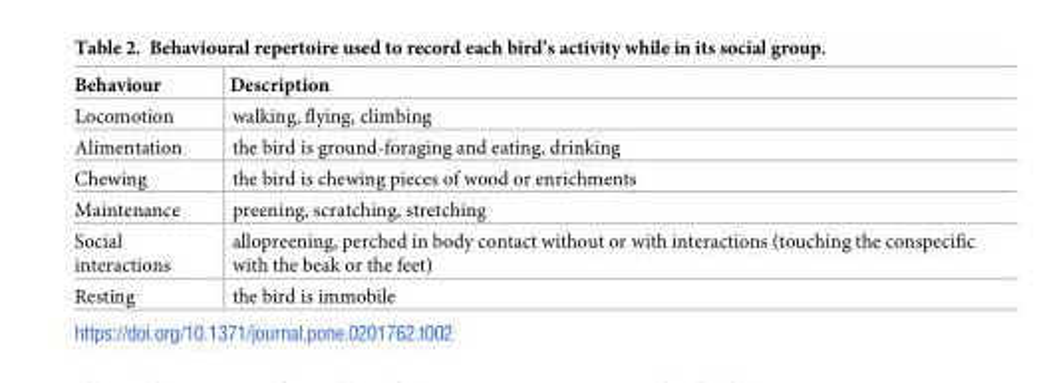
<table><thead><tr><td>Behaviour</td><td>Description</td></tr></thead><tbody><tr><td>Locomotion</td><td>walking, flying, climbing</td></tr><tr><td>Alimentation</td><td>the bird is ground-foraging and eating, drinking</td></tr><tr><td>Chewing</td><td>the bird is chewing pieces of wood or enrichments</td></tr><tr><td>Maintenance</td><td>preening, scratching, stretching</td></tr><tr><td>Social interactions</td><td>allopreening, perched in body contact without or with interactions (touching the conspecific with the beak or the feet)</td></tr><tr><td>Resting</td><td>the bird is immobile</td></tr></tbody></table>